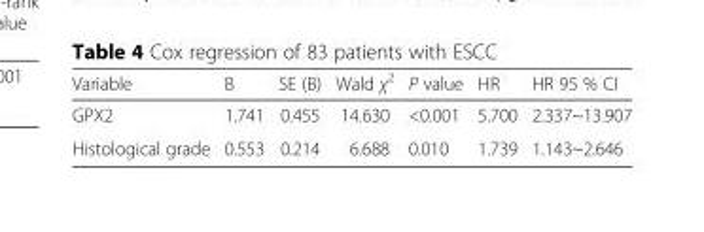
<table><thead><tr><td>Variable</td><td>B</td><td>SE (B)</td><td>Wald χ<sup>2</sup></td><td>P value</td><td>HR</td><td>HR 95 % CI</td></tr></thead><tbody><tr><td>GPX2</td><td>1.741</td><td>0.455</td><td>14.630</td><td>&lt;0.001</td><td>5.700</td><td>2.337~13.907</td></tr><tr><td>Histological grade</td><td>0.553</td><td>0.214</td><td>6.688</td><td>0.010</td><td>1.739</td><td>1.143~2.646</td></tr></tbody></table>